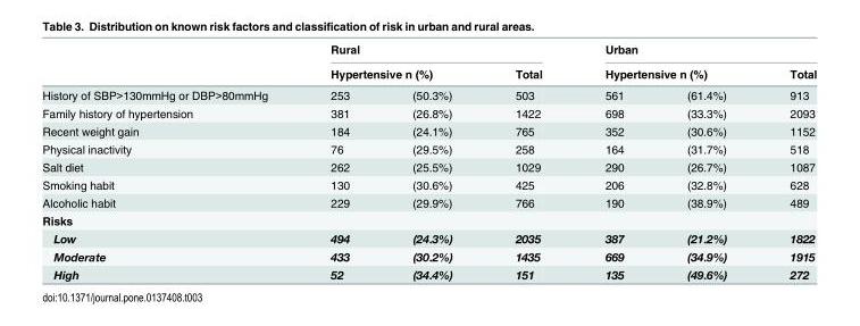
<table><thead><tr><td rowspan="3">History of SBP&gt;130mmHg or DBP&gt;80mmHg</td><td colspan="3">Rural</td><td colspan="3">Urban</td></tr><tr><td colspan="2">Hypertensive n (%)</td><td rowspan="2">Total 503</td><td colspan="2">Hypertensive n (%)</td><td rowspan="2">Total 913</td></tr><tr><td>253</td><td>(50.3%)</td><td>561</td><td>(61.4%)</td></tr></thead><tbody><tr><td>Family history of hypertension</td><td>381</td><td>(26.8%)</td><td>1422</td><td>698</td><td>(33.3%)</td><td>2093</td></tr><tr><td>Recent weight gain</td><td>184</td><td>(24.1%)</td><td>765</td><td>352</td><td>(30.6%)</td><td>1152</td></tr><tr><td>Physical inactivity</td><td>76</td><td>(29.5%)</td><td>258</td><td>164</td><td>(31.7%)</td><td>518</td></tr><tr><td>Salt diet</td><td>262</td><td>(25.5%)</td><td>1029</td><td>290</td><td>(26.7%)</td><td>1087</td></tr><tr><td>Smoking habit</td><td>130</td><td>(30.6%)</td><td>425</td><td>206</td><td>(32.8%)</td><td>628</td></tr><tr><td>Alcoholic habit</td><td>229</td><td>(29.9%)</td><td>766</td><td>190</td><td>(38.9%)</td><td>489</td></tr><tr><td colspan="7">Risks</td></tr><tr><td>Low</td><td>494</td><td>(24.3%)</td><td>2035</td><td>387</td><td>(21.2%)</td><td>1822</td></tr><tr><td>Moderate</td><td>433</td><td>(30.2%)</td><td>1435</td><td>669</td><td>(34.9%)</td><td>1915</td></tr><tr><td>High</td><td>52</td><td>(34.4%)</td><td>151</td><td>135</td><td>(49.6%)</td><td>272</td></tr></tbody></table>